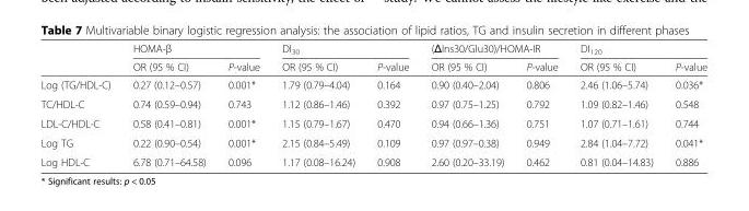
<table><thead><tr><td rowspan="2"></td><td colspan="2">HOMA-β</td><td colspan="2">DI<sub>30</sub></td><td colspan="2">(ΔIns30/Glu30)/HOMA-IR</td><td colspan="2">DI<sub>120</sub></td></tr><tr><td>OR (95 % CI)</td><td>P-value</td><td>OR (95 % CI)</td><td>P-value</td><td>OR (95 % CI)</td><td>P-value</td><td>OR (95 % CI)</td><td>P-value</td></tr></thead><tbody><tr><td>Log (TG/HDL-C)</td><td>0.27 (0.12–0.57)</td><td>0.001*</td><td>1.79 (0.79–4.04)</td><td>0.164</td><td>0.90 (0.40–2.04)</td><td>0.806</td><td>2.46 (1.06–5.74)</td><td>0.036*</td></tr><tr><td>TC/HDL-C</td><td>0.74 (0.59–0.94)</td><td>0.743</td><td>1.12 (0.86–1.46)</td><td>0.392</td><td>0.97 (0.75–1.25)</td><td>0.792</td><td>1.09 (0.82–1.46)</td><td>0.548</td></tr><tr><td>LDL-C/HDL-C</td><td>0.58 (0.41–0.81)</td><td>0.001*</td><td>1.15 (0.79–1.67)</td><td>0.470</td><td>0.94 (0.66–1.36)</td><td>0.751</td><td>1.07 (0.71–1.61)</td><td>0.744</td></tr><tr><td>Log TG</td><td>0.22 (0.90–0.54)</td><td>0.001*</td><td>2.15 (0.84–5.49)</td><td>0.109</td><td>0.97 (0.97–0.38)</td><td>0.949</td><td>2.84 (1.04–7.72)</td><td>0.041*</td></tr><tr><td>Log HDL-C</td><td>6.78 (0.71–64.58)</td><td>0.096</td><td>1.17 (0.08–16.24)</td><td>0.908</td><td>2.60 (0.20–33.19)</td><td>0.462</td><td>0.81 (0.04–14.83)</td><td>0.886</td></tr></tbody></table>